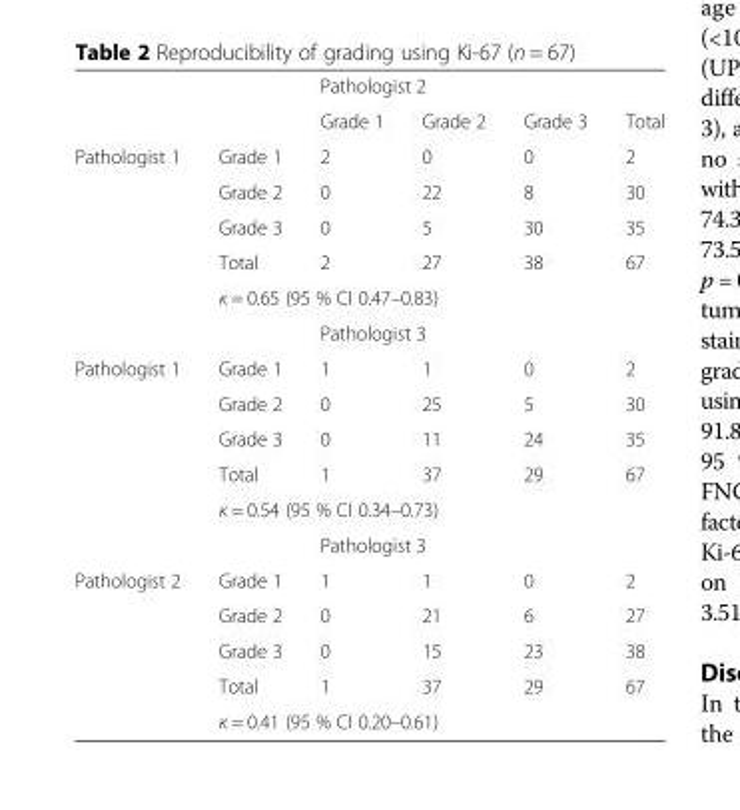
<table><thead><tr><td rowspan="2"></td><td rowspan="2"></td><td colspan="4">Pathologist 2</td></tr><tr><td>Grade 1</td><td>Grade 2</td><td>Grade 3</td><td>Total</td></tr></thead><tbody><tr><td rowspan="5">Pathologist 1</td><td>Grade 1</td><td>2</td><td>0</td><td>0</td><td>2</td></tr><tr><td>Grade 2</td><td>0</td><td>22</td><td>8</td><td>30</td></tr><tr><td>Grade 3</td><td>0</td><td>5</td><td>30</td><td>35</td></tr><tr><td>Total</td><td>2</td><td>27</td><td>38</td><td>67</td></tr><tr><td colspan="5">κ = 0.65 (95 % CI 0.47–0.83)</td></tr><tr><td colspan="2"></td><td colspan="4">Pathologist 3</td></tr><tr><td rowspan="5">Pathologist 1</td><td>Grade 1</td><td>1</td><td>1</td><td>0</td><td>2</td></tr><tr><td>Grade 2</td><td>0</td><td>25</td><td>5</td><td>30</td></tr><tr><td>Grade 3</td><td>0</td><td>11</td><td>24</td><td>35</td></tr><tr><td>Total</td><td>1</td><td>37</td><td>29</td><td>67</td></tr><tr><td colspan="5">κ = 0.54 (95 % CI 0.34–0.73)</td></tr><tr><td colspan="2"></td><td colspan="4">Pathologist 3</td></tr><tr><td rowspan="5">Pathologist 2</td><td>Grade 1</td><td>1</td><td>1</td><td>0</td><td>2</td></tr><tr><td>Grade 2</td><td>0</td><td>21</td><td>6</td><td>27</td></tr><tr><td>Grade 3</td><td>0</td><td>15</td><td>23</td><td>38</td></tr><tr><td>Total</td><td>1</td><td>37</td><td>29</td><td>67</td></tr><tr><td colspan="5">κ = 0.41 (95 % CI 0.20–0.61)</td></tr></tbody></table>